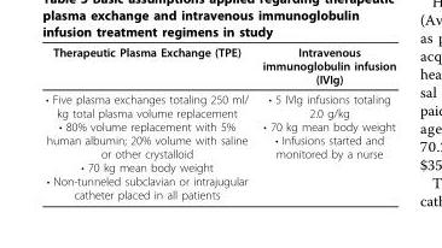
<table><thead><tr><td>Therapeutic Plasma Exchange (TPE)</td><td>Intravenous immunoglobulin infusion (IVIg)</td></tr></thead><tbody><tr><td>• Five plasma exchanges totaling 250 ml/ kg total plasma volume replacement • 80% volume replacement with 5% human albumin; 20% volume with saline or other crystalloid • 70 kg mean body weight • Non-tunneled subclavian or intrajugular catheter placed in all patients</td><td>• 5 IVIg infusions totaling 2.0 g/kg • 70 kg mean body weight • Infusions started and monitored by a nurse</td></tr></tbody></table>